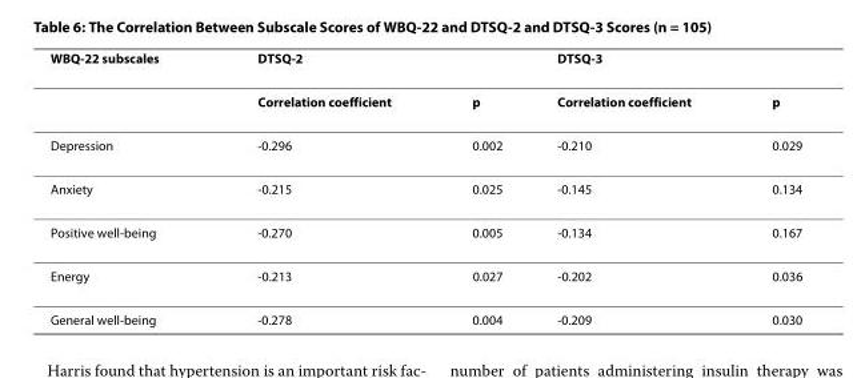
<table><thead><tr><td>WBQ-22 subscales</td><td>DTSQ-2</td><td></td><td>DTSQ-3</td><td></td></tr></thead><tbody><tr><td></td><td>Correlation coefficient</td><td>p</td><td>Correlation coefficient</td><td>p</td></tr><tr><td>Depression</td><td>-0.296</td><td>0.002</td><td>-0.210</td><td>0.029</td></tr><tr><td>Anxiety</td><td>-0.215</td><td>0.025</td><td>-0.145</td><td>0.134</td></tr><tr><td>Positive well-being</td><td>-0.270</td><td>0.005</td><td>-0.134</td><td>0.167</td></tr><tr><td>Energy</td><td>-0.213</td><td>0.027</td><td>-0.202</td><td>0.036</td></tr><tr><td>General well-being</td><td>-0.278</td><td>0.004</td><td>-0.209</td><td>0.030</td></tr></tbody></table>